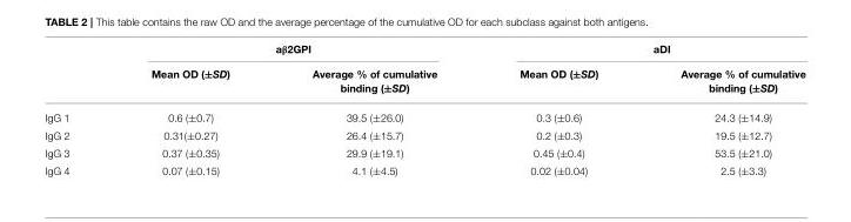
<table><thead><tr><td rowspan="2"></td><td colspan="2">aβ2GPI</td><td colspan="2">aDI</td></tr><tr><td>Mean OD (±SD)</td><td>Average % of cumulative binding (±SD)</td><td>Mean OD (±SD)</td><td>Average % of cumulative binding (±SD)</td></tr></thead><tbody><tr><td>IgG 1</td><td>0.6 (±0.7)</td><td>39.5 (±26.0)</td><td>0.3 (±0.6)</td><td>24.3 (±14.9)</td></tr><tr><td>IgG 2</td><td>0.31(±0.27)</td><td>26.4 (±15.7)</td><td>0.2 (±0.3)</td><td>19.5 (±12.7)</td></tr><tr><td>IgG 3</td><td>0.37 (±0.35)</td><td>29.9 (±19.1)</td><td>0.45 (±0.4)</td><td>53.5 (±21.0)</td></tr><tr><td>IgG 4</td><td>0.07 (±0.15)</td><td>4.1 (±4.5)</td><td>0.02 (±0.04)</td><td>2.5 (±3.3)</td></tr></tbody></table>